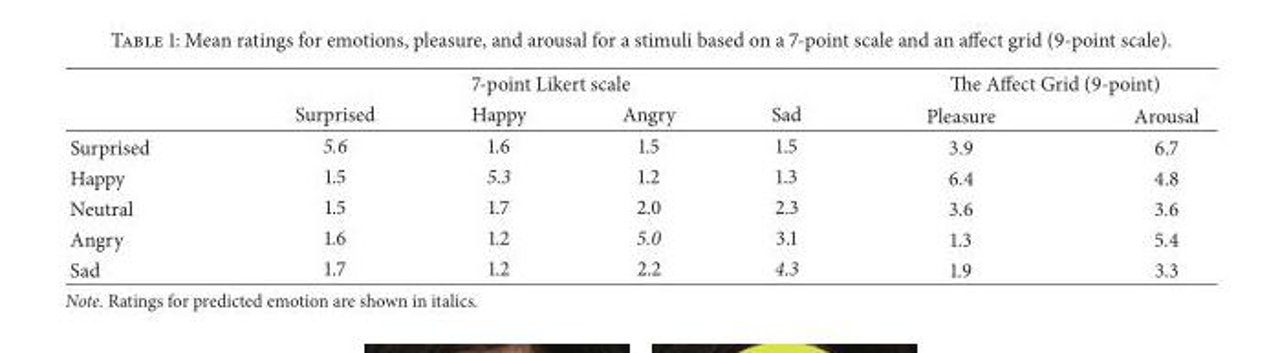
<table><thead><tr><td rowspan="2"></td><td colspan="4">7-point Likert scale</td><td colspan="2">The Affect Grid (9-point)</td></tr><tr><td>Surprised</td><td>Happy</td><td>Angry</td><td>Sad</td><td>Pleasure</td><td>Arousal</td></tr></thead><tbody><tr><td>Surprised</td><td>5.6</td><td>1.6</td><td>1.5</td><td>1.5</td><td>3.9</td><td>6.7</td></tr><tr><td>Happy</td><td>1.5</td><td>5.3</td><td>1.2</td><td>1.3</td><td>6.4</td><td>4.8</td></tr><tr><td>Neutral</td><td>1.5</td><td>1.7</td><td>2.0</td><td>2.3</td><td>3.6</td><td>3.6</td></tr><tr><td>Angry</td><td>1.6</td><td>1.2</td><td>5.0</td><td>3.1</td><td>1.3</td><td>5.4</td></tr><tr><td>Sad</td><td>1.7</td><td>1.2</td><td>2.2</td><td>4.3</td><td>1.9</td><td>3.3</td></tr></tbody></table>